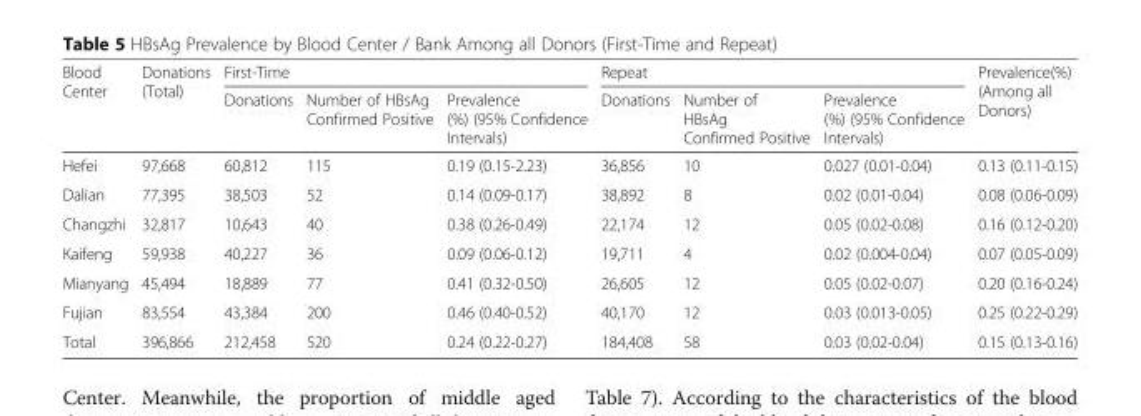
<table><thead><tr><td rowspan="2">Blood Center</td><td rowspan="2">Donations (Total)</td><td colspan="3">First-Time</td><td colspan="3">Repeat</td><td rowspan="2">Prevalence(%) (Among all Donors)</td></tr><tr><td>Donations</td><td>Number of HBsAg Confirmed Positive</td><td>Prevalence (%) (95% Confidence Intervals)</td><td>Donations</td><td>Number of HBsAg Confirmed Positive</td><td>Prevalence (%) (95% Confidence Intervals)</td></tr></thead><tbody><tr><td>Hefei</td><td>97,668</td><td>60,812</td><td>115</td><td>0.19 (0.15-2.23)</td><td>36,856</td><td>10</td><td>0.027 (0.01-0.04)</td><td>0.13 (0.11-0.15)</td></tr><tr><td>Dalian</td><td>77,395</td><td>38,503</td><td>52</td><td>0.14 (0.09-0.17)</td><td>38,892</td><td>8</td><td>0.02 (0.01-0.04)</td><td>0.08 (0.06-0.09)</td></tr><tr><td>Changzhi</td><td>32,817</td><td>10,643</td><td>40</td><td>0.38 (0.26-0.49)</td><td>22,174</td><td>12</td><td>0.05 (0.02-0.08)</td><td>0.16 (0.12-0.20)</td></tr><tr><td>Kaifeng</td><td>59,938</td><td>40,227</td><td>36</td><td>0.09 (0.06-0.12)</td><td>19,711</td><td>4</td><td>0.02 (0.004-0.04)</td><td>0.07 (0.05-0.09)</td></tr><tr><td>Mianyang</td><td>45,494</td><td>18,889</td><td>77</td><td>0.41 (0.32-0.50)</td><td>26,605</td><td>12</td><td>0.05 (0.02-0.07)</td><td>0.20 (0.16-0.24)</td></tr><tr><td>Fujian</td><td>83,554</td><td>43,384</td><td>200</td><td>0.46 (0.40-0.52)</td><td>40,170</td><td>12</td><td>0.03 (0.013-0.05)</td><td>0.25 (0.22-0.29)</td></tr><tr><td>Total</td><td>396,866</td><td>212,458</td><td>520</td><td>0.24 (0.22-0.27)</td><td>184,408</td><td>58</td><td>0.03 (0.02-0.04)</td><td>0.15 (0.13-0.16)</td></tr></tbody></table>